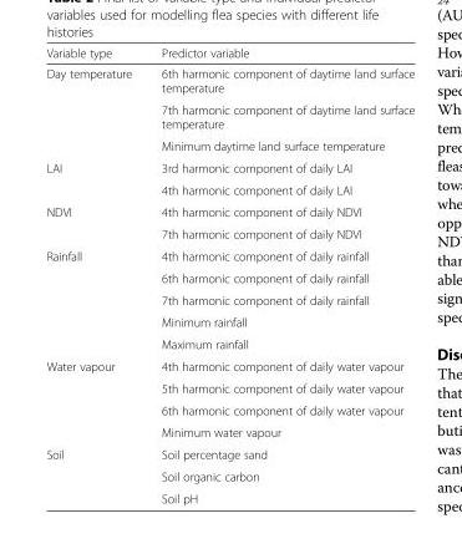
<table><thead><tr><td>Variable type</td><td>Predictor variable</td></tr></thead><tbody><tr><td rowspan="3">Day temperature</td><td>6th harmonic component of daytime land surface temperature</td></tr><tr><td>7th harmonic component of daytime land surface temperature</td></tr><tr><td>Minimum daytime land surface temperature</td></tr><tr><td rowspan="2">LAI</td><td>3rd harmonic component of daily LAI</td></tr><tr><td>4th harmonic component of daily LAI</td></tr><tr><td rowspan="2">NDVI</td><td>4th harmonic component of daily NDVI</td></tr><tr><td>7th harmonic component of daily NDVI</td></tr><tr><td rowspan="5">Rainfall</td><td>4th harmonic component of daily rainfall</td></tr><tr><td>6th harmonic component of daily rainfall</td></tr><tr><td>7th harmonic component of daily rainfall</td></tr><tr><td>Minimum rainfall</td></tr><tr><td>Maximum rainfall</td></tr><tr><td rowspan="4">Water vapour</td><td>4th harmonic component of daily water vapour</td></tr><tr><td>5th harmonic component of daily water vapour</td></tr><tr><td>6th harmonic component of daily water vapour</td></tr><tr><td>Minimum water vapour</td></tr><tr><td rowspan="3">Soil</td><td>Soil percentage sand</td></tr><tr><td>Soil organic carbon</td></tr><tr><td>Soil pH</td></tr></tbody></table>